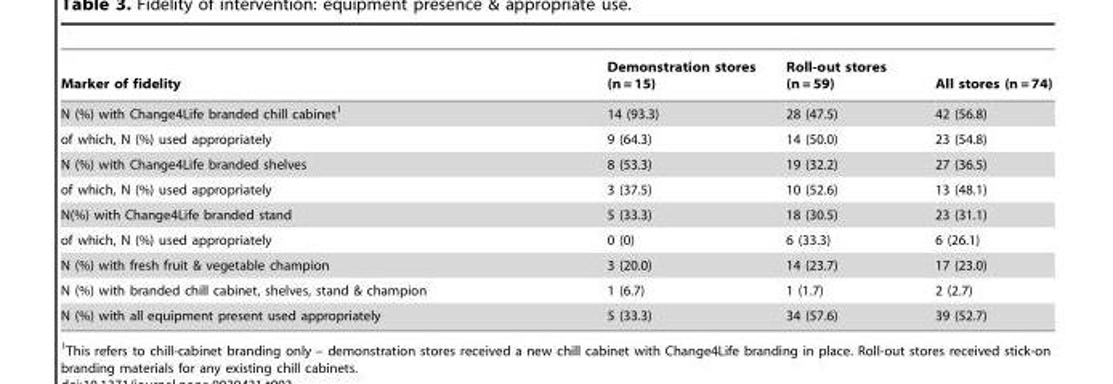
<table><thead><tr><td>Marker of fidelity</td><td>Demonstration stores (n = 15)</td><td>Roll-out stores (n = 59)</td><td>All stores (n = 74)</td></tr></thead><tbody><tr><td>N (%) with Change4Life branded chill cabinet<sup>1</sup></td><td>14 (93.3)</td><td>28 (47.5)</td><td>42 (56.8)</td></tr><tr><td>of which, N (%) used appropriately</td><td>9 (64.3)</td><td>14 (50.0)</td><td>23 (54.8)</td></tr><tr><td>N (%) with Change4Life branded shelves</td><td>8 (53.3)</td><td>19 (32.2)</td><td>27 (36.5)</td></tr><tr><td>of which, N (%) used appropriately</td><td>3 (37.5)</td><td>10 (52.6)</td><td>13 (48.1)</td></tr><tr><td>N(%) with Change4Life branded stand</td><td>5 (33.3)</td><td>18 (30.5)</td><td>23 (31.1)</td></tr><tr><td>of which, N (%) used appropriately</td><td>0 (0)</td><td>6 (33.3)</td><td>6 (26.1)</td></tr><tr><td>N (%) with fresh fruit &amp; vegetable champion</td><td>3 (20.0)</td><td>14 (23.7)</td><td>17 (23.0)</td></tr><tr><td>N (%) with branded chill cabinet, shelves, stand &amp; champion</td><td>1 (6.7)</td><td>1 (1.7)</td><td>2 (2.7)</td></tr><tr><td>N (%) with all equipment present used appropriately</td><td>5 (33.3)</td><td>34 (57.6)</td><td>39 (52.7)</td></tr></tbody></table>